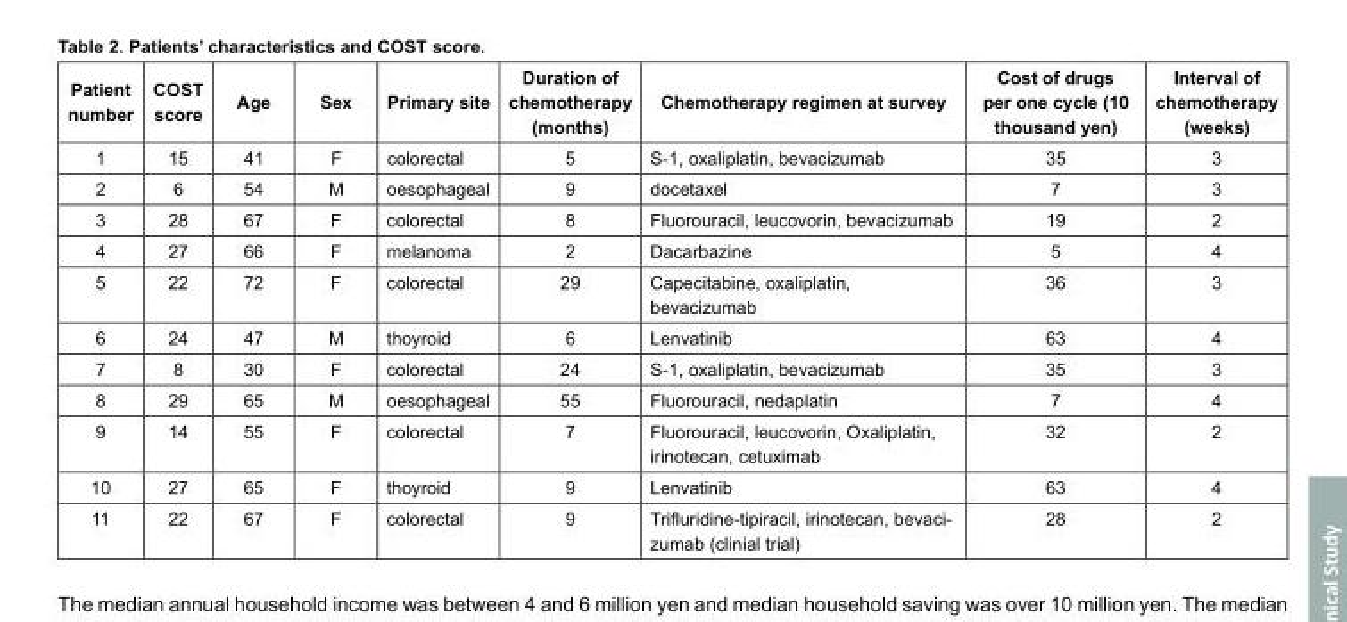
<table><thead><tr><td>Patient number</td><td>COST score</td><td>Age</td><td>Sex</td><td>Primary site</td><td>Duration of chemotherapy (months)</td><td>Chemotherapy regimen at survey</td><td>Cost of drugs per one cycle (10 thousand yen)</td><td>Interval of chemotherapy (weeks)</td></tr></thead><tbody><tr><td>1</td><td>15</td><td>41</td><td>F</td><td>colorectal</td><td>5</td><td>S-1, oxaliplatin, bevacizumab</td><td>35</td><td>3</td></tr><tr><td>2</td><td>6</td><td>54</td><td>M</td><td>oesophageal</td><td>9</td><td>docetaxel</td><td>7</td><td>3</td></tr><tr><td>3</td><td>28</td><td>67</td><td>F</td><td>colorectal</td><td>8</td><td>Fluorouracil, leucovorin, bevacizumab</td><td>19</td><td>2</td></tr><tr><td>4</td><td>27</td><td>66</td><td>F</td><td>melanoma</td><td>2</td><td>Dacarbazine</td><td>5</td><td>4</td></tr><tr><td>5</td><td>22</td><td>72</td><td>F</td><td>colorectal</td><td>29</td><td>Capecitabine, oxaliplatin, bevacizumab</td><td>36</td><td>3</td></tr><tr><td>6</td><td>24</td><td>47</td><td>M</td><td>thoyroid</td><td>6</td><td>Lenvatinib</td><td>63</td><td>4</td></tr><tr><td>7</td><td>8</td><td>30</td><td>F</td><td>colorectal</td><td>24</td><td>S-1, oxaliplatin, bevacizumab</td><td>35</td><td>3</td></tr><tr><td>8</td><td>29</td><td>65</td><td>M</td><td>oesophageal</td><td>55</td><td>Fluorouracil, nedaplatin</td><td>7</td><td>4</td></tr><tr><td>9</td><td>14</td><td>55</td><td>F</td><td>colorectal</td><td>7</td><td>Fluorouracil, leucovorin, Oxaliplatin, irinotecan, cetuximab</td><td>32</td><td>2</td></tr><tr><td>10</td><td>27</td><td>65</td><td>F</td><td>thoyroid</td><td>9</td><td>Lenvatinib</td><td>63</td><td>4</td></tr><tr><td>11</td><td>22</td><td>67</td><td>F</td><td>colorectal</td><td>9</td><td>Trifluridine-tipiracil, irinotecan, bevaci- zumab (clinial trial)</td><td>28</td><td>2</td></tr></tbody></table>